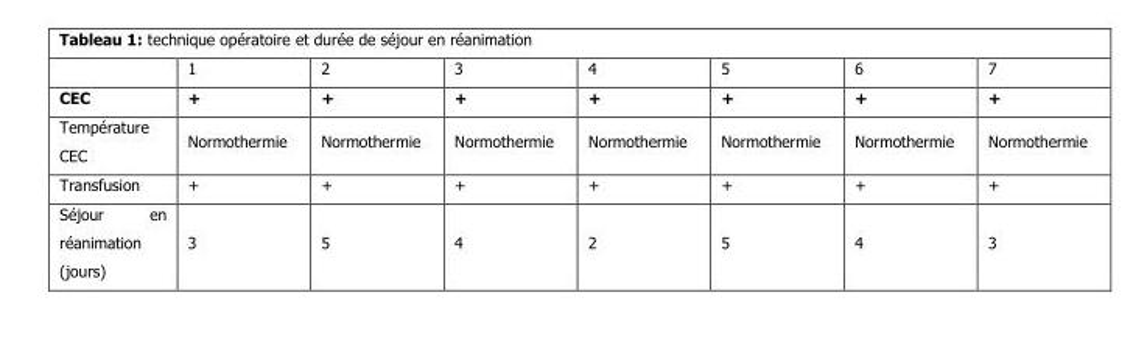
<table><thead><tr><td rowspan="2">CEC</td><td rowspan="2">1 +</td><td rowspan="2">2 +</td><td rowspan="2">3 +</td><td rowspan="2">4 +</td><td rowspan="2">5 +</td><td rowspan="2">6 +</td><td rowspan="2">7 +</td></tr><tr></tr></thead><tbody><tr><td>Température CEC</td><td>Normothermie</td><td>Normothermie</td><td>Normothermie</td><td>Normothermie</td><td>Normothermie</td><td>Normothermie</td><td>Normothermie</td></tr><tr><td>Transfusion</td><td>+</td><td>+</td><td>+</td><td>+</td><td>+</td><td>+</td><td>+</td></tr><tr><td>Séjour en réanimation (jours)</td><td>3</td><td>5</td><td>4</td><td>2</td><td>5</td><td>4</td><td>3</td></tr></tbody></table>